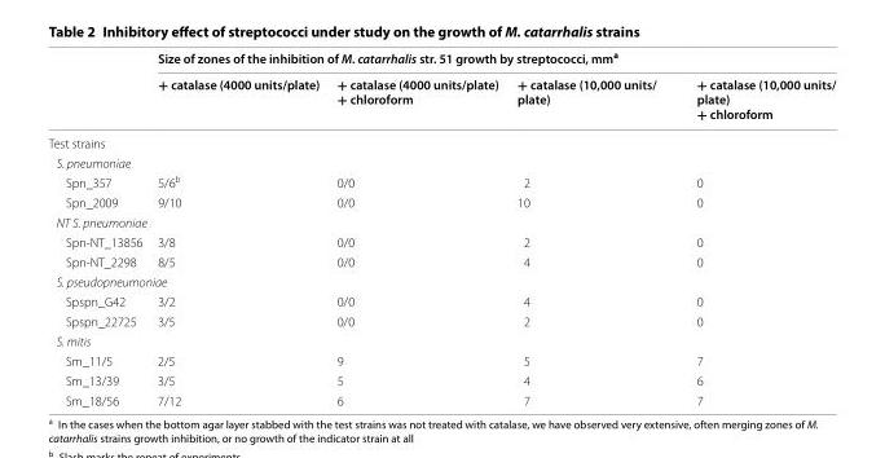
<table><thead><tr><td rowspan="2"></td><td colspan="4">Size of zones of the inhibition of M. catarrhalis str. 51 growth by streptococci, mm<sup>a</sup></td></tr><tr><td>+ catalase (4000 units/plate)</td><td>+ catalase (4000 units/plate) + chloroform</td><td>+ catalase (10,000 units/ plate)</td><td>+ catalase (10,000 units/ plate) + chloroform</td></tr></thead><tbody><tr><td colspan="5">Test strains</td></tr><tr><td colspan="5">S. pneumoniae</td></tr><tr><td>Spn_357</td><td>5/6<sup>b</sup></td><td>0/0</td><td>2</td><td>0</td></tr><tr><td>Spn_2009</td><td>9/10</td><td>0/0</td><td>10</td><td>0</td></tr><tr><td colspan="5">NT S. pneumoniae</td></tr><tr><td>Spn-NT_13856</td><td>3/8</td><td>0/0</td><td>2</td><td>0</td></tr><tr><td>Spn-NT_2298</td><td>8/5</td><td>0/0</td><td>4</td><td>0</td></tr><tr><td colspan="5">S. pseudopneumoniae</td></tr><tr><td>Spspn_G42</td><td>3/2</td><td>0/0</td><td>4</td><td>0</td></tr><tr><td>Spspn_22725</td><td>3/5</td><td>0/0</td><td>2</td><td>0</td></tr><tr><td colspan="5">S. mitis</td></tr><tr><td>Sm_11/5</td><td>2/5</td><td>9</td><td>5</td><td>7</td></tr><tr><td>Sm_13/39</td><td>3/5</td><td>5</td><td>4</td><td>6</td></tr><tr><td>Sm_18/56</td><td>7/12</td><td>6</td><td>7</td><td>7</td></tr></tbody></table>